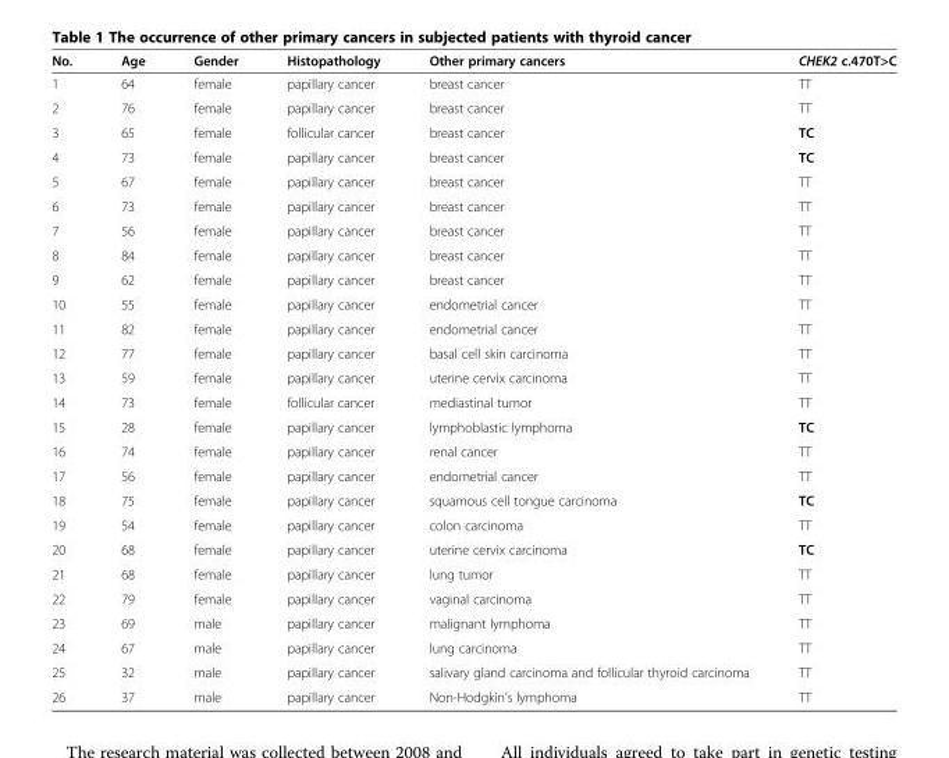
<table><thead><tr><td>No.</td><td>Age</td><td>Gender</td><td>Histopathology</td><td>Other primary cancers</td><td>CHEK2 c.470T&gt;C</td></tr></thead><tbody><tr><td>1</td><td>64</td><td>female</td><td>papillary cancer</td><td>breast cancer</td><td>TT</td></tr><tr><td>2</td><td>76</td><td>female</td><td>papillary cancer</td><td>breast cancer</td><td>TT</td></tr><tr><td>3</td><td>65</td><td>female</td><td>follicular cancer</td><td>breast cancer</td><td>TC</td></tr><tr><td>4</td><td>73</td><td>female</td><td>papillary cancer</td><td>breast cancer</td><td>TC</td></tr><tr><td>5</td><td>67</td><td>female</td><td>papillary cancer</td><td>breast cancer</td><td>TT</td></tr><tr><td>6</td><td>73</td><td>female</td><td>papillary cancer</td><td>breast cancer</td><td>TT</td></tr><tr><td>7</td><td>56</td><td>female</td><td>papillary cancer</td><td>breast cancer</td><td>TT</td></tr><tr><td>8</td><td>84</td><td>female</td><td>papillary cancer</td><td>breast cancer</td><td>TT</td></tr><tr><td>9</td><td>62</td><td>female</td><td>papillary cancer</td><td>breast cancer</td><td>TT</td></tr><tr><td>10</td><td>55</td><td>female</td><td>papillary cancer</td><td>endometrial cancer</td><td>TT</td></tr><tr><td>11</td><td>82</td><td>female</td><td>papillary cancer</td><td>endometrial cancer</td><td>TT</td></tr><tr><td>12</td><td>77</td><td>female</td><td>papillary cancer</td><td>basal cell skin carcinoma</td><td>TT</td></tr><tr><td>13</td><td>59</td><td>female</td><td>papillary cancer</td><td>uterine cervix carcinoma</td><td>TT</td></tr><tr><td>14</td><td>73</td><td>female</td><td>follicular cancer</td><td>mediastinal tumor</td><td>TT</td></tr><tr><td>15</td><td>28</td><td>female</td><td>papillary cancer</td><td>lymphoblastic lymphoma</td><td>TC</td></tr><tr><td>16</td><td>74</td><td>female</td><td>papillary cancer</td><td>renal cancer</td><td>TT</td></tr><tr><td>17</td><td>56</td><td>female</td><td>papillary cancer</td><td>endometrial cancer</td><td>TT</td></tr><tr><td>18</td><td>75</td><td>female</td><td>papillary cancer</td><td>squamous cell tongue carcinoma</td><td>TC</td></tr><tr><td>19</td><td>54</td><td>female</td><td>papillary cancer</td><td>colon carcinoma</td><td>TT</td></tr><tr><td>20</td><td>68</td><td>female</td><td>papillary cancer</td><td>uterine cervix carcinoma</td><td>TC</td></tr><tr><td>21</td><td>68</td><td>female</td><td>papillary cancer</td><td>lung tumor</td><td>TT</td></tr><tr><td>22</td><td>79</td><td>female</td><td>papillary cancer</td><td>vaginal carcinoma</td><td>TT</td></tr><tr><td>23</td><td>69</td><td>male</td><td>papillary cancer</td><td>malignant lymphoma</td><td>TT</td></tr><tr><td>24</td><td>67</td><td>male</td><td>papillary cancer</td><td>lung carcinoma</td><td>TT</td></tr><tr><td>25</td><td>32</td><td>male</td><td>papillary cancer</td><td>salivary gland carcinoma and follicular thyroid carcinoma</td><td>TT</td></tr><tr><td>26</td><td>37</td><td>male</td><td>papillary cancer</td><td>Non-Hodgkin&#x27;s lymphoma</td><td>TT</td></tr></tbody></table>